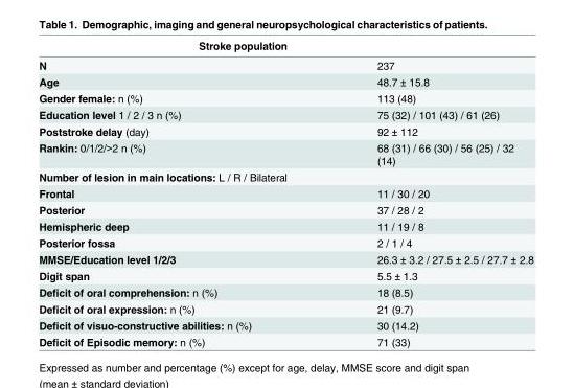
<table><thead><tr><td>Stroke population</td><td></td></tr></thead><tbody><tr><td>N</td><td>237</td></tr><tr><td>Age</td><td>48.7 ± 15.8</td></tr><tr><td>Gender female: n (%)</td><td>113 (48)</td></tr><tr><td>Education level 1 / 2 / 3 n (%)</td><td>75 (32) / 101 (43) / 61 (26)</td></tr><tr><td>Poststroke delay (day)</td><td>92 ± 112</td></tr><tr><td>Rankin: 0/1/2/&gt;2 n (%)</td><td>68 (31) / 66 (30) / 56 (25) / 32 (14)</td></tr><tr><td colspan="2">Number of lesion in main locations: L / R / Bilateral</td></tr><tr><td>Frontal</td><td>11 / 30 / 20</td></tr><tr><td>Posterior</td><td>37 / 28 / 2</td></tr><tr><td>Hemispheric deep</td><td>11 / 19 / 8</td></tr><tr><td>Posterior fossa</td><td>2 / 1 / 4</td></tr><tr><td>MMSE/Education level 1/2/3</td><td>26.3 ± 3.2 / 27.5 ± 2.5 / 27.7 ± 2.8</td></tr><tr><td>Digit span</td><td>5.5 ± 1.3</td></tr><tr><td>Deficit of oral comprehension: n (%)</td><td>18 (8.5)</td></tr><tr><td>Deficit of oral expression: n (%)</td><td>21 (9.7)</td></tr><tr><td>Deficit of visuo-constructive abilities: n (%)</td><td>30 (14.2)</td></tr><tr><td>Deficit of Episodic memory: n (%)</td><td>71 (33)</td></tr></tbody></table>